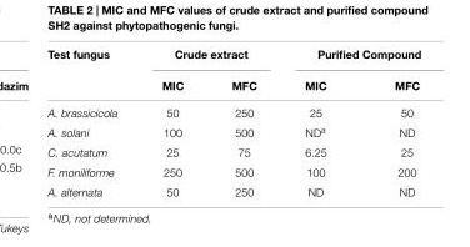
<table><thead><tr><td rowspan="2">Test fungus</td><td colspan="2">Crude extract</td><td colspan="2">Purified Compound</td></tr><tr><td>MIC</td><td>MFC</td><td>MIC</td><td>MFC</td></tr></thead><tbody><tr><td>A. brassicicola</td><td>50</td><td>250</td><td>25</td><td>50</td></tr><tr><td>A. solani</td><td>100</td><td>500</td><td>ND<sup>a</sup></td><td>ND</td></tr><tr><td>C. acutatum</td><td>25</td><td>75</td><td>6.25</td><td>25</td></tr><tr><td>F. moniliforme</td><td>250</td><td>500</td><td>100</td><td>200</td></tr><tr><td>A. alternata</td><td>50</td><td>250</td><td>ND</td><td>ND</td></tr></tbody></table>